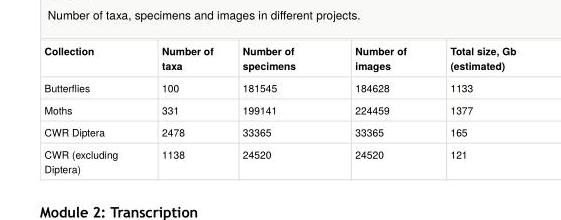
<table><tbody><tr><td>Collection</td><td>Number of taxa</td><td>Number of specimens</td><td>Number of images</td><td>Total size, Gb (estimated)</td></tr><tr><td>Butterflies</td><td>100</td><td>181545</td><td>184628</td><td>1133</td></tr><tr><td>Moths</td><td>331</td><td>199141</td><td>224459</td><td>1377</td></tr><tr><td>CWR Diptera</td><td>2478</td><td>33365</td><td>33365</td><td>165</td></tr><tr><td>CWR (excluding Diptera)</td><td>1138</td><td>24520</td><td>24520</td><td>121</td></tr></tbody></table>